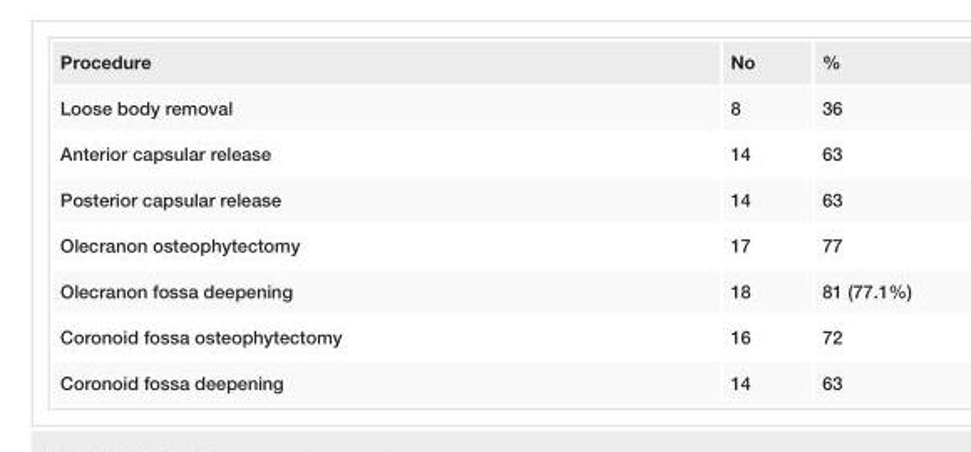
<table><tbody><tr><td>Procedure</td><td>No</td><td>%</td></tr><tr><td>Loose body removal</td><td>8</td><td>36</td></tr><tr><td>Anterior capsular release</td><td>14</td><td>63</td></tr><tr><td>Posterior capsular release</td><td>14</td><td>63</td></tr><tr><td>Olecranon osteophytectomy</td><td>17</td><td>77</td></tr><tr><td>Olecranon fossa deepening</td><td>18</td><td>81 (77.1%)</td></tr><tr><td>Coronoid fossa osteophytectomy</td><td>16</td><td>72</td></tr><tr><td>Coronoid fossa deepening</td><td>14</td><td>63</td></tr></tbody></table>